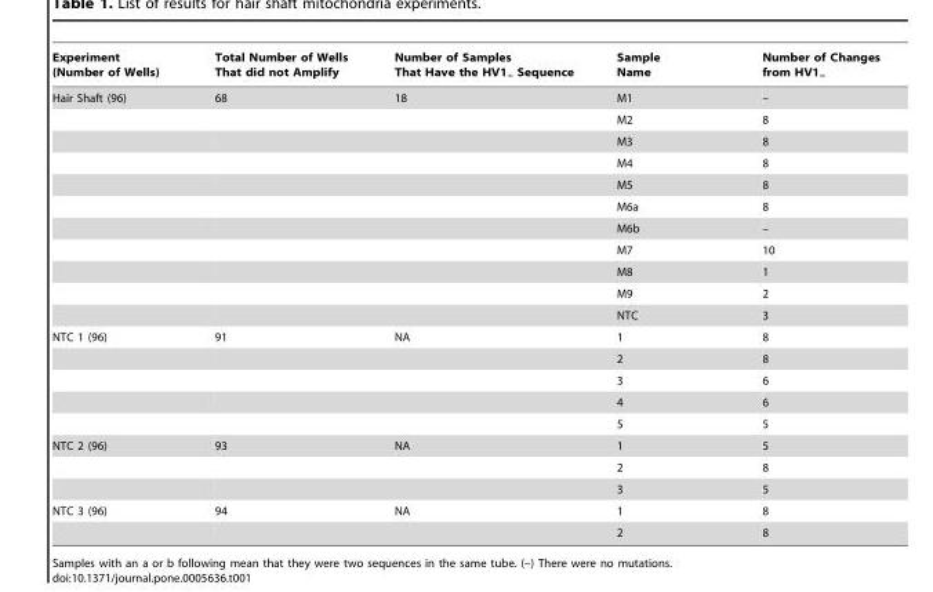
<table><thead><tr><td>Experiment (Number of Wells)</td><td>Total Number of Wells That did not Amplify</td><td>Number of Samples That Have the HV1‘ Sequence</td><td>Sample Name</td><td>Number of Changes from HV1‘</td></tr></thead><tbody><tr><td rowspan="11">Hair Shaft (96)</td><td>68</td><td>18</td><td>M1</td><td>–</td></tr><tr><td></td><td></td><td>M2</td><td>8</td></tr><tr><td></td><td></td><td>M3</td><td>8</td></tr><tr><td></td><td></td><td>M4</td><td>8</td></tr><tr><td></td><td></td><td>M5</td><td>8</td></tr><tr><td></td><td></td><td>M6a</td><td>8</td></tr><tr><td></td><td></td><td>M6b</td><td>–</td></tr><tr><td></td><td></td><td>M7</td><td>10</td></tr><tr><td></td><td></td><td>M8</td><td>1</td></tr><tr><td></td><td></td><td>M9</td><td>2</td></tr><tr><td></td><td></td><td>NTC</td><td>3</td></tr><tr><td rowspan="5">NTC 1 (96)</td><td>91</td><td>NA</td><td>1</td><td>8</td></tr><tr><td></td><td></td><td>2</td><td>8</td></tr><tr><td></td><td></td><td>3</td><td>6</td></tr><tr><td></td><td></td><td>4</td><td>6</td></tr><tr><td></td><td></td><td>5</td><td>5</td></tr><tr><td rowspan="3">NTC 2 (96)</td><td>93</td><td>NA</td><td>1</td><td>5</td></tr><tr><td></td><td></td><td>2</td><td>8</td></tr><tr><td></td><td></td><td>3</td><td>5</td></tr><tr><td rowspan="2">NTC 3 (96)</td><td>94</td><td>NA</td><td>1</td><td>8</td></tr><tr><td></td><td></td><td>2</td><td>8</td></tr></tbody></table>